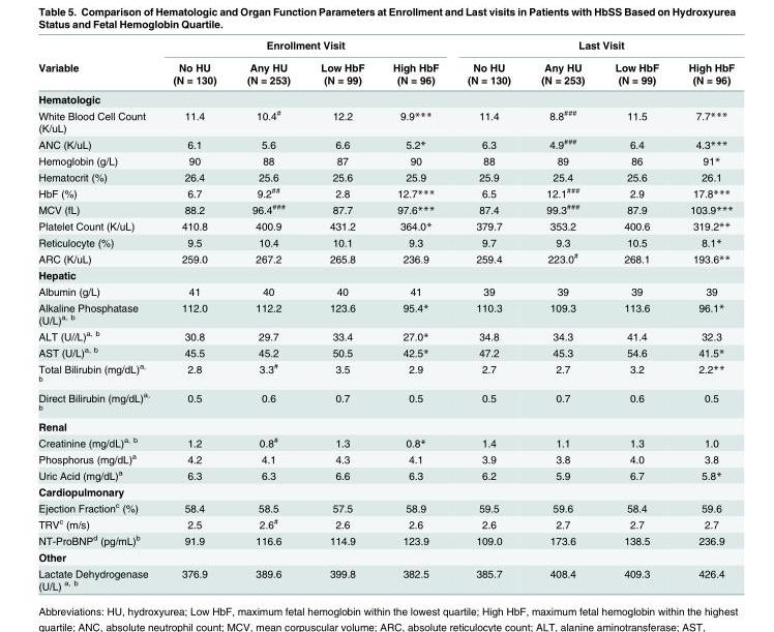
<table><thead><tr><td rowspan="2">Variable</td><td colspan="4">Enrollment Visit</td><td colspan="4">Last Visit</td></tr><tr><td>No HU (N = 130)</td><td>Any HU (N = 253)</td><td>Low HbF (N = 99)</td><td>High HbF (N = 96)</td><td>No HU (N = 130)</td><td>Any HU (N = 253)</td><td>Low HbF (N = 99)</td><td>High HbF (N = 96)</td></tr></thead><tbody><tr><td colspan="9">Hematologic</td></tr><tr><td>White Blood Cell Count (K/uL)</td><td>11.4</td><td>10.4<sup>#</sup></td><td>12.2</td><td>9.9***</td><td>11.4</td><td>8.8<sup>###</sup></td><td>11.5</td><td>7.7***</td></tr><tr><td>ANC (K/uL)</td><td>6.1</td><td>5.6</td><td>6.6</td><td>5.2*</td><td>6.3</td><td>4.9<sup>###</sup></td><td>6.4</td><td>4.3***</td></tr><tr><td>Hemoglobin (g/L)</td><td>90</td><td>88</td><td>87</td><td>90</td><td>88</td><td>89</td><td>86</td><td>91*</td></tr><tr><td>Hematocrit (%)</td><td>26.4</td><td>25.6</td><td>25.6</td><td>25.9</td><td>25.9</td><td>25.4</td><td>25.6</td><td>26.1</td></tr><tr><td>HbF (%)</td><td>6.7</td><td>9.2<sup>##</sup></td><td>2.8</td><td>12.7***</td><td>6.5</td><td>12.1<sup>###</sup></td><td>2.9</td><td>17.8***</td></tr><tr><td>MCV (fL)</td><td>88.2</td><td>96.4<sup>###</sup></td><td>87.7</td><td>97.6***</td><td>87.4</td><td>99.3<sup>###</sup></td><td>87.9</td><td>103.9***</td></tr><tr><td>Platelet Count (K/uL)</td><td>410.8</td><td>400.9</td><td>431.2</td><td>364.0*</td><td>379.7</td><td>353.2</td><td>400.6</td><td>319.2**</td></tr><tr><td>Reticulocyte (%)</td><td>9.5</td><td>10.4</td><td>10.1</td><td>9.3</td><td>9.7</td><td>9.3</td><td>10.5</td><td>8.1*</td></tr><tr><td>ARC (K/uL)</td><td>259.0</td><td>267.2</td><td>265.8</td><td>236.9</td><td>259.4</td><td>223.0<sup>#</sup></td><td>268.1</td><td>193.6**</td></tr><tr><td colspan="9">Hepatic</td></tr><tr><td>Albumin (g/L)</td><td>41</td><td>40</td><td>40</td><td>41</td><td>39</td><td>39</td><td>39</td><td>39</td></tr><tr><td>Alkaline Phosphatase (U/L)<sup>a, b</sup></td><td>112.0</td><td>112.2</td><td>123.6</td><td>95.4*</td><td>110.3</td><td>109.3</td><td>113.6</td><td>96.1*</td></tr><tr><td>ALT (U//L)<sup>a, b</sup></td><td>30.8</td><td>29.7</td><td>33.4</td><td>27.0*</td><td>34.8</td><td>34.3</td><td>41.4</td><td>32.3</td></tr><tr><td>AST (U/L)<sup>a, b</sup></td><td>45.5</td><td>45.2</td><td>50.5</td><td>42.5*</td><td>47.2</td><td>45.3</td><td>54.6</td><td>41.5*</td></tr><tr><td>Total Bilirubin (mg/dL)<sup>a, b</sup></td><td>2.8</td><td>3.3<sup>#</sup></td><td>3.5</td><td>2.9</td><td>2.7</td><td>2.7</td><td>3.2</td><td>2.2**</td></tr><tr><td>Direct Bilirubin (mg/dL)<sup>a, b</sup></td><td>0.5</td><td>0.6</td><td>0.7</td><td>0.5</td><td>0.5</td><td>0.7</td><td>0.6</td><td>0.5</td></tr><tr><td colspan="9">Renal</td></tr><tr><td>Creatinine (mg/dL)<sup>a, b</sup></td><td>1.2</td><td>0.8<sup>#</sup></td><td>1.3</td><td>0.8*</td><td>1.4</td><td>1.1</td><td>1.3</td><td>1.0</td></tr><tr><td>Phosphorus (mg/dL)<sup>a</sup></td><td>4.2</td><td>4.1</td><td>4.3</td><td>4.1</td><td>3.9</td><td>3.8</td><td>4.0</td><td>3.8</td></tr><tr><td>Uric Acid (mg/dL)<sup>a</sup></td><td>6.3</td><td>6.3</td><td>6.6</td><td>6.3</td><td>6.2</td><td>5.9</td><td>6.7</td><td>5.8*</td></tr><tr><td colspan="9">Cardiopulmonary</td></tr><tr><td>Ejection Fraction<sup>c</sup> (%)</td><td>58.4</td><td>58.5</td><td>57.5</td><td>58.9</td><td>59.5</td><td>59.6</td><td>58.4</td><td>59.6</td></tr><tr><td>TRV<sup>c</sup> (m/s)</td><td>2.5</td><td>2.6<sup>#</sup></td><td>2.6</td><td>2.6</td><td>2.6</td><td>2.7</td><td>2.7</td><td>2.7</td></tr><tr><td>NT-ProBNP<sup>d</sup> (pg/mL)<sup>b</sup></td><td>91.9</td><td>116.6</td><td>114.9</td><td>123.9</td><td>109.0</td><td>173.6</td><td>138.5</td><td>236.9</td></tr><tr><td colspan="9">Other</td></tr><tr><td>Lactate Dehydrogenase (U/L) <sup>a, b</sup></td><td>376.9</td><td>389.6</td><td>399.8</td><td>382.5</td><td>385.7</td><td>408.4</td><td>409.3</td><td>426.4</td></tr></tbody></table>